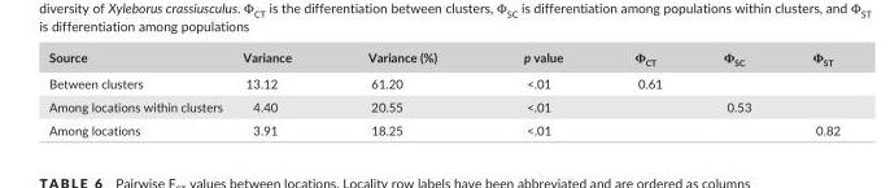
<table><thead><tr><td>Source</td><td>Variance</td><td>Variance (%)</td><td>p value</td><td>Φ<sub>CT</sub></td><td>Φ<sub>SC</sub></td><td>Φ<sub>ST</sub></td></tr></thead><tbody><tr><td>Between clusters</td><td>13.12</td><td>61.20</td><td>&lt;.01</td><td>0.61</td><td></td><td></td></tr><tr><td>Among locations within clusters</td><td>4.40</td><td>20.55</td><td>&lt;.01</td><td></td><td>0.53</td><td></td></tr><tr><td>Among locations</td><td>3.91</td><td>18.25</td><td>&lt;.01</td><td></td><td></td><td>0.82</td></tr></tbody></table>